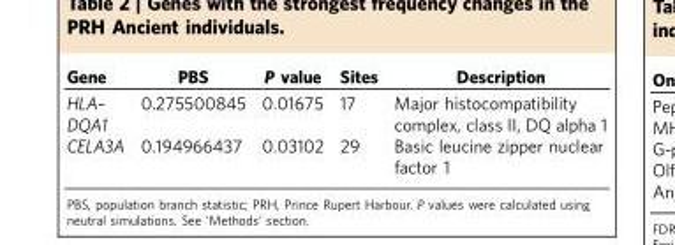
<table><thead><tr><td>Gene</td><td>PBS</td><td>P value</td><td>Sites</td><td>Description</td></tr></thead><tbody><tr><td>HLA– DQA1</td><td>0.275500845</td><td>0.01675</td><td>17</td><td>Major histocompatibility complex, class II, DQ alpha 1</td></tr><tr><td>CELA3A</td><td>0.194966437</td><td>0.03102</td><td>29</td><td>Basic leucine zipper nuclear factor 1</td></tr></tbody></table>